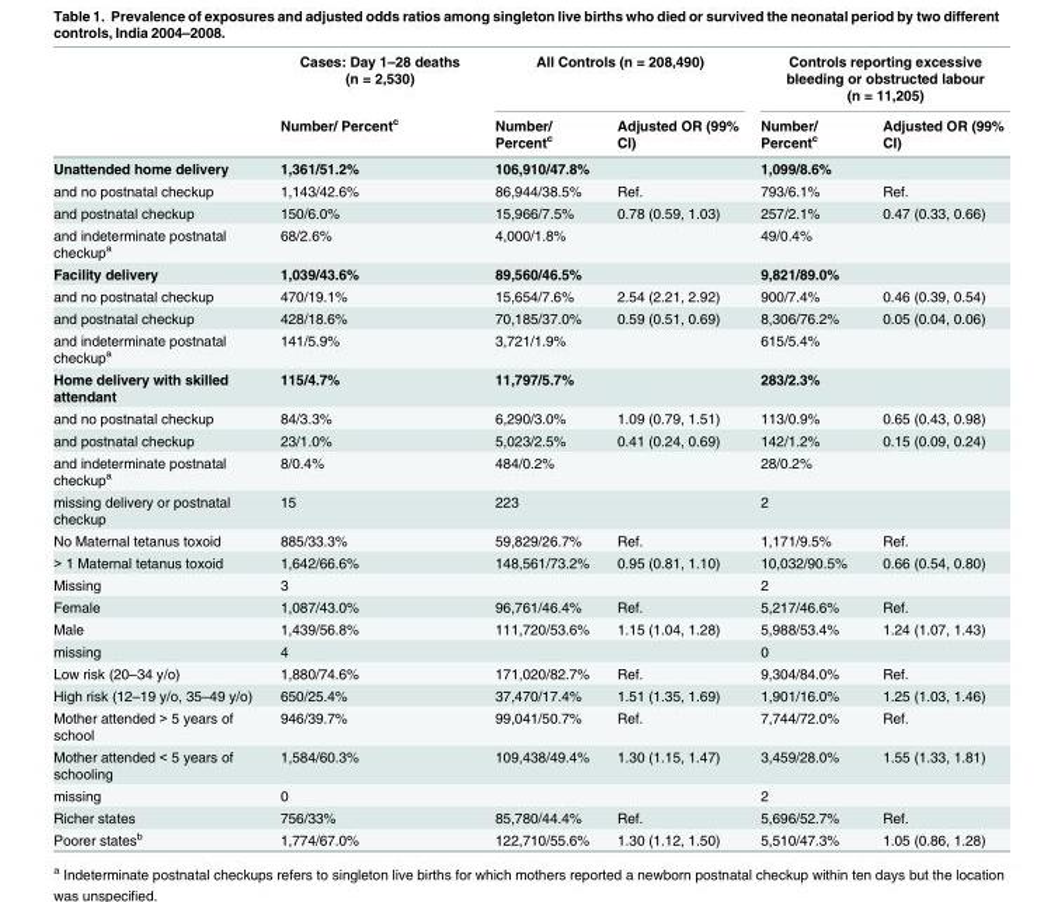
<table><thead><tr><td rowspan="2"></td><td rowspan="2">Cases: Day 1–28 deaths (n = 2,530) Number/ Percent<sup>c</sup></td><td colspan="2">All Controls (n = 208,490)</td><td colspan="2">Controls reporting excessive bleeding or obstructed labour (n = 11,205)</td></tr><tr><td>Number/ Percent<sup>c</sup></td><td>Adjusted OR (99% CI)</td><td>Number/ Percent<sup>c</sup></td><td>Adjusted OR (99% CI)</td></tr></thead><tbody><tr><td>Unattended home delivery</td><td>1,361/51.2%</td><td>106,910/47.8%</td><td></td><td>1,099/8.6%</td><td></td></tr><tr><td>and no postnatal checkup</td><td>1,143/42.6%</td><td>86,944/38.5%</td><td>Ref.</td><td>793/6.1%</td><td>Ref.</td></tr><tr><td>and postnatal checkup</td><td>150/6.0%</td><td>15,966/7.5%</td><td>0.78 (0.59, 1.03)</td><td>257/2.1%</td><td>0.47 (0.33, 0.66)</td></tr><tr><td>and indeterminate postnatal checkup<sup>a</sup></td><td>68/2.6%</td><td>4,000/1.8%</td><td></td><td>49/0.4%</td><td></td></tr><tr><td>Facility delivery</td><td>1,039/43.6%</td><td>89,560/46.5%</td><td></td><td>9,821/89.0%</td><td></td></tr><tr><td>and no postnatal checkup</td><td>470/19.1%</td><td>15,654/7.6%</td><td>2.54 (2.21, 2.92)</td><td>900/7.4%</td><td>0.46 (0.39, 0.54)</td></tr><tr><td>and postnatal checkup</td><td>428/18.6%</td><td>70,185/37.0%</td><td>0.59 (0.51, 0.69)</td><td>8,306/76.2%</td><td>0.05 (0.04, 0.06)</td></tr><tr><td>and indeterminate postnatal checkup<sup>a</sup></td><td>141/5.9%</td><td>3,721/1.9%</td><td></td><td>615/5.4%</td><td></td></tr><tr><td>Home delivery with skilled attendant</td><td>115/4.7%</td><td>11,797/5.7%</td><td></td><td>283/2.3%</td><td></td></tr><tr><td>and no postnatal checkup</td><td>84/3.3%</td><td>6,290/3.0%</td><td>1.09 (0.79, 1.51)</td><td>113/0.9%</td><td>0.65 (0.43, 0.98)</td></tr><tr><td>and postnatal checkup</td><td>23/1.0%</td><td>5,023/2.5%</td><td>0.41 (0.24, 0.69)</td><td>142/1.2%</td><td>0.15 (0.09, 0.24)</td></tr><tr><td>and indeterminate postnatal checkup<sup>a</sup></td><td>8/0.4%</td><td>484/0.2%</td><td></td><td>28/0.2%</td><td></td></tr><tr><td>missing delivery or postnatal checkup</td><td>15</td><td>223</td><td></td><td>2</td><td></td></tr><tr><td>No Maternal tetanus toxoid</td><td>885/33.3%</td><td>59,829/26.7%</td><td>Ref.</td><td>1,171/9.5%</td><td>Ref.</td></tr><tr><td>&gt; 1 Maternal tetanus toxoid</td><td>1,642/66.6%</td><td>148,561/73.2%</td><td>0.95 (0.81, 1.10)</td><td>10,032/90.5%</td><td>0.66 (0.54, 0.80)</td></tr><tr><td>Missing</td><td>3</td><td></td><td></td><td>2</td><td></td></tr><tr><td>Female</td><td>1,087/43.0%</td><td>96,761/46.4%</td><td>Ref.</td><td>5,217/46.6%</td><td>Ref.</td></tr><tr><td>Male</td><td>1,439/56.8%</td><td>111,720/53.6%</td><td>1.15 (1.04, 1.28)</td><td>5,988/53.4%</td><td>1.24 (1.07, 1.43)</td></tr><tr><td>missing</td><td>4</td><td></td><td></td><td>0</td><td></td></tr><tr><td>Low risk (20–34 y/o)</td><td>1,880/74.6%</td><td>171,020/82.7%</td><td>Ref.</td><td>9,304/84.0%</td><td>Ref.</td></tr><tr><td>High risk (12–19 y/o, 35–49 y/o)</td><td>650/25.4%</td><td>37,470/17.4%</td><td>1.51 (1.35, 1.69)</td><td>1,901/16.0%</td><td>1.25 (1.03, 1.46)</td></tr><tr><td>Mother attended &gt; 5 years of school</td><td>946/39.7%</td><td>99,041/50.7%</td><td>Ref.</td><td>7,744/72.0%</td><td>Ref.</td></tr><tr><td>Mother attended &lt; 5 years of schooling</td><td>1,584/60.3%</td><td>109,438/49.4%</td><td>1.30 (1.15, 1.47)</td><td>3,459/28.0%</td><td>1.55 (1.33, 1.81)</td></tr><tr><td>missing</td><td>0</td><td></td><td></td><td>2</td><td></td></tr><tr><td>Richer states</td><td>756/33%</td><td>85,780/44.4%</td><td>Ref.</td><td>5,696/52.7%</td><td>Ref.</td></tr><tr><td>Poorer states<sup>b</sup></td><td>1,774/67.0%</td><td>122,710/55.6%</td><td>1.30 (1.12, 1.50)</td><td>5,510/47.3%</td><td>1.05 (0.86, 1.28)</td></tr></tbody></table>